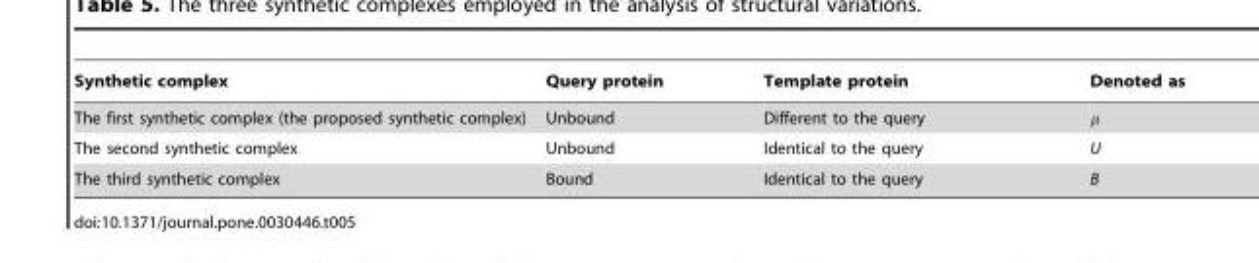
<table><thead><tr><td>Synthetic complex</td><td>Query protein</td><td>Template protein</td><td>Denoted as</td></tr></thead><tbody><tr><td>The first synthetic complex (the proposed synthetic complex)</td><td>Unbound</td><td>Different to the query</td><td>μ</td></tr><tr><td>The second synthetic complex</td><td>Unbound</td><td>Identical to the query</td><td>U</td></tr><tr><td>The third synthetic complex</td><td>Bound</td><td>Identical to the query</td><td>B</td></tr></tbody></table>